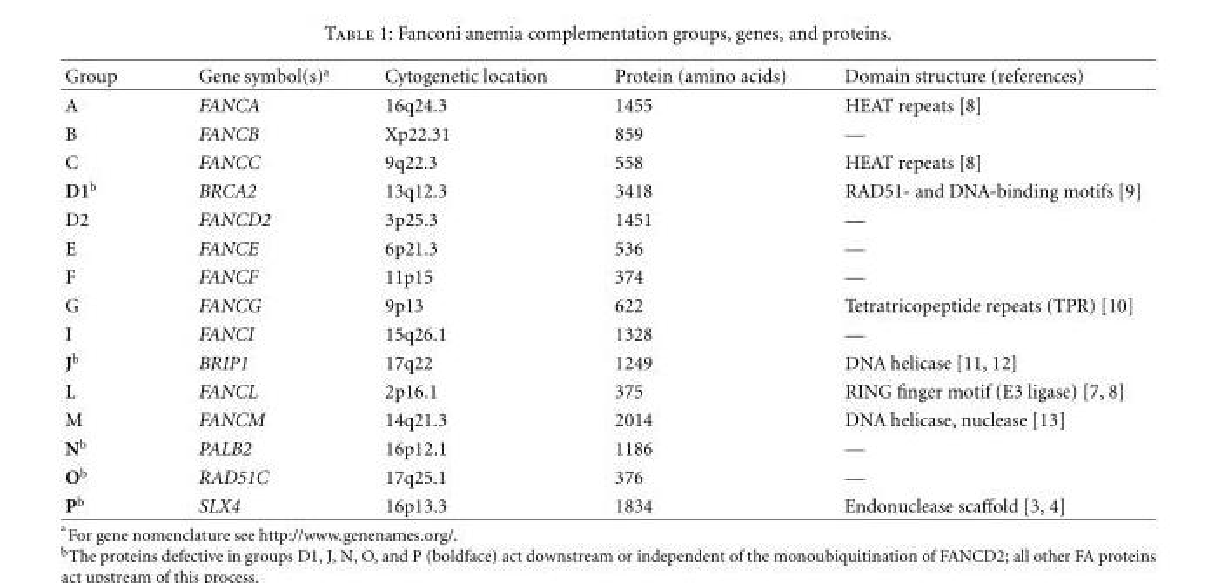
<table><thead><tr><td>Group</td><td>Gene symbol(s)<sup>a</sup></td><td>Cytogenetic location</td><td>Protein (amino acids)</td><td>Domain structure (references)</td></tr></thead><tbody><tr><td>A</td><td>FANCA</td><td>16q24.3</td><td>1455</td><td>HEAT repeats [8]</td></tr><tr><td>B</td><td>FANCB</td><td>Xp22.31</td><td>859</td><td>—</td></tr><tr><td>C</td><td>FANCC</td><td>9q22.3</td><td>558</td><td>HEAT repeats [8]</td></tr><tr><td>D1<sup>b</sup></td><td>BRCA2</td><td>13q12.3</td><td>3418</td><td>RAD51- and DNA-binding motifs [9]</td></tr><tr><td>D2</td><td>FANCD2</td><td>3p25.3</td><td>1451</td><td>—</td></tr><tr><td>E</td><td>FANCE</td><td>6p21.3</td><td>536</td><td>—</td></tr><tr><td>F</td><td>FANCF</td><td>11p15</td><td>374</td><td>—</td></tr><tr><td>G</td><td>FANCG</td><td>9p13</td><td>622</td><td>Tetratricopeptide repeats (TPR) [10]</td></tr><tr><td>I</td><td>FANCI</td><td>15q26.1</td><td>1328</td><td>—</td></tr><tr><td>J<sup>b</sup></td><td>BRIP1</td><td>17q22</td><td>1249</td><td>DNA helicase [11, 12]</td></tr><tr><td>L</td><td>FANCL</td><td>2p16.1</td><td>375</td><td>RING finger motif (E3 ligase) [7, 8]</td></tr><tr><td>M</td><td>FANCM</td><td>14q21.3</td><td>2014</td><td>DNA helicase, nuclease [13]</td></tr><tr><td>N<sup>b</sup></td><td>PALB2</td><td>16p12.1</td><td>1186</td><td>—</td></tr><tr><td>O<sup>b</sup></td><td>RAD51C</td><td>17q25.1</td><td>376</td><td>—</td></tr><tr><td>P<sup>b</sup></td><td>SLX4</td><td>16p13.3</td><td>1834</td><td>Endonuclease scaffold [3, 4]</td></tr></tbody></table>